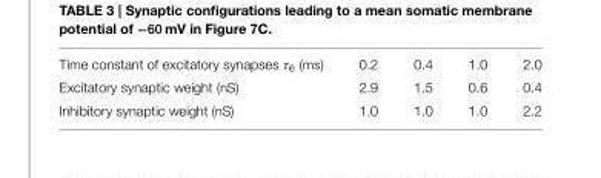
<table><tbody><tr><td>Time constant of excitatory synapses τ<sub>e</sub> (ms)</td><td>0.2</td><td>0.4</td><td>1.0</td><td>2.0</td></tr><tr><td>Excitatory synaptic weight (nS)</td><td>2.9</td><td>1.5</td><td>0.6</td><td>0.4</td></tr><tr><td>Inhibitory synaptic weight (nS)</td><td>1.0</td><td>1.0</td><td>1.0</td><td>2.2</td></tr></tbody></table>